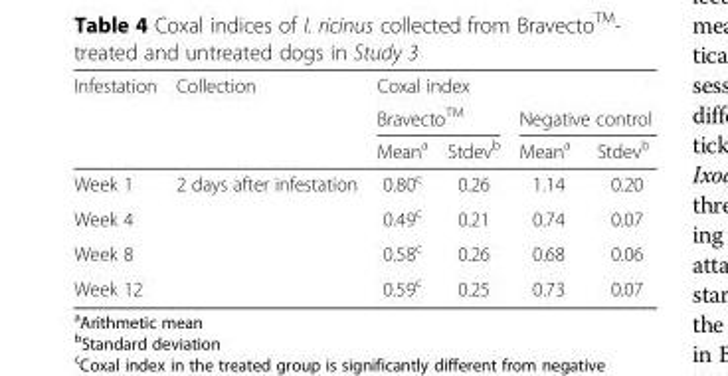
<table><thead><tr><td rowspan="3">Infestation</td><td rowspan="3">Collection</td><td colspan="4">Coxal index</td></tr><tr><td colspan="2">Bravecto<sup>TM</sup></td><td colspan="2">Negative control</td></tr><tr><td>Mean<sup>a</sup></td><td>Stdev<sup>b</sup></td><td>Mean<sup>a</sup></td><td>Stdev<sup>b</sup></td></tr></thead><tbody><tr><td>Week 1</td><td rowspan="4">2 days after infestation</td><td>0.80<sup>c</sup></td><td>0.26</td><td>1.14</td><td>0.20</td></tr><tr><td>Week 4</td><td>0.49<sup>c</sup></td><td>0.21</td><td>0.74</td><td>0.07</td></tr><tr><td>Week 8</td><td>0.58<sup>c</sup></td><td>0.26</td><td>0.68</td><td>0.06</td></tr><tr><td>Week 12</td><td>0.59<sup>c</sup></td><td>0.25</td><td>0.73</td><td>0.07</td></tr></tbody></table>